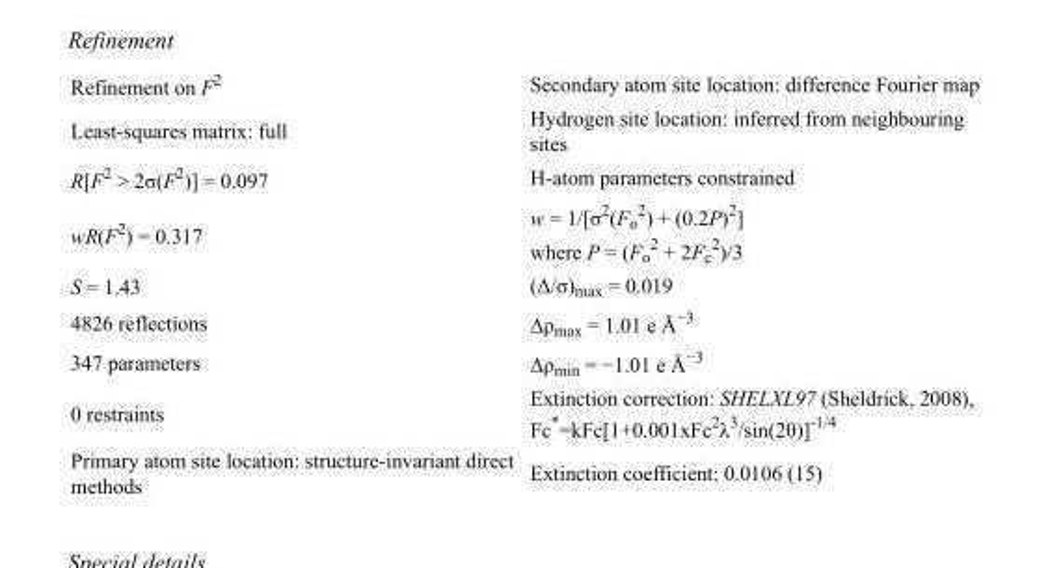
<table><tbody><tr><td>Refinement on F<sup>2</sup></td><td>Secondary atom site location: difference Fourier map</td></tr><tr><td>Least-squares matrix: full</td><td>Hydrogen site location: inferred from neighbouring sites</td></tr><tr><td>R[F<sup>2</sup> &gt; 2σ(F<sup>2</sup>)] = 0.097</td><td>H-atom parameters constrained</td></tr><tr><td>wR(F<sup>2</sup>) = 0.317</td><td>w = 1/[σ<sup>2</sup>(F<sub>o</sub> <sup>2</sup>) + (0.2P)<sup>2</sup>] where P = (F<sub>o</sub> <sup>2</sup> + 2F<sub>c</sub> <sup>2</sup>)/3</td></tr><tr><td>S = 1.43</td><td>(Δ/σ)<sub>max</sub> = 0.019</td></tr><tr><td>4826 reflections</td><td>Δρ<sub>max</sub> = 1.01 e Å<sup>−3</sup></td></tr><tr><td>347 parameters</td><td>Δρ<sub>min</sub> = −1.01 e Å<sup>−3</sup></td></tr><tr><td>0 restraints</td><td>Extinction correction: SHELXL97 (Sheldrick, 2008), Fc*=kFc[1+0.001xFc<sup>2</sup>λ<sup>3</sup>/sin(2θ)]<sup>-1/4</sup></td></tr><tr><td>Primary atom site location: structure-invariant direct methods</td><td>Extinction coefficient: 0.0106 (15)</td></tr></tbody></table>